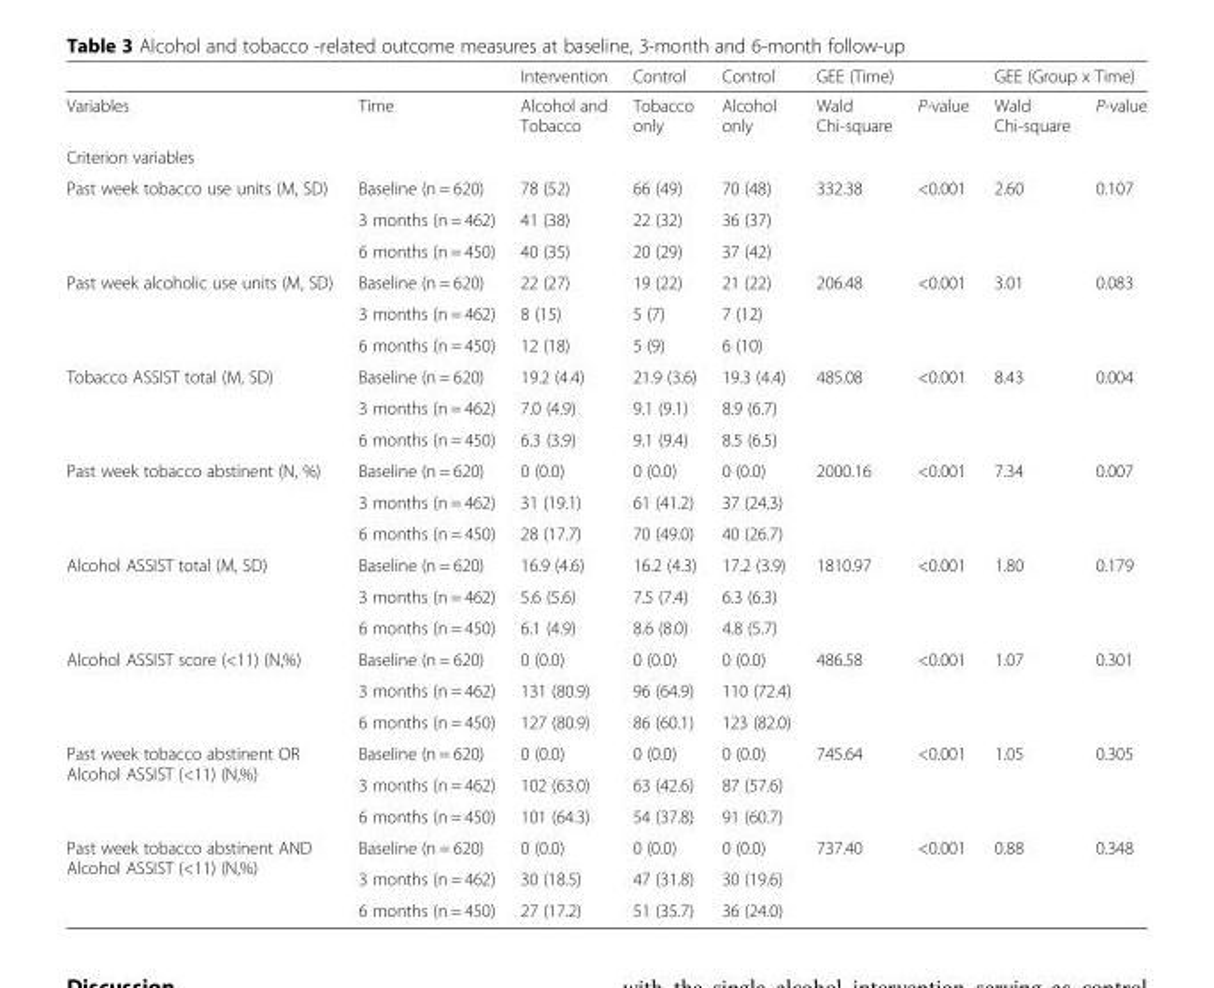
<table><thead><tr><td rowspan="2">Variables</td><td rowspan="2">Time</td><td rowspan="2">Intervention Alcohol and Tobacco</td><td rowspan="2">Control Tobacco only</td><td rowspan="2">Control Alcohol only</td><td colspan="2">GEE (Time)</td><td colspan="2">GEE (Group x Time)</td></tr><tr><td>Wald Chi-square</td><td>P-value</td><td>Wald Chi-square</td><td>P-value</td></tr></thead><tbody><tr><td colspan="9">Criterion variables</td></tr><tr><td rowspan="3">Past week tobacco use units (M, SD)</td><td>Baseline (n = 620)</td><td>78 (52)</td><td>66 (49)</td><td>70 (48)</td><td rowspan="3">332.38</td><td rowspan="3">&lt;0.001</td><td rowspan="3">2.60</td><td rowspan="3">0.107</td></tr><tr><td>3 months (n = 462)</td><td>41 (38)</td><td>22 (32)</td><td>36 (37)</td></tr><tr><td>6 months (n = 450)</td><td>40 (35)</td><td>20 (29)</td><td>37 (42)</td></tr><tr><td rowspan="3">Past week alcoholic use units (M, SD)</td><td>Baseline (n = 620)</td><td>22 (27)</td><td>19 (22)</td><td>21 (22)</td><td rowspan="3">206.48</td><td rowspan="3">&lt;0.001</td><td rowspan="3">3.01</td><td rowspan="3">0.083</td></tr><tr><td>3 months (n = 462)</td><td>8 (15)</td><td>5 (7)</td><td>7 (12)</td></tr><tr><td>6 months (n = 450)</td><td>12 (18)</td><td>5 (9)</td><td>6 (10)</td></tr><tr><td rowspan="3">Tobacco ASSIST total (M, SD)</td><td>Baseline (n = 620)</td><td>19.2 (4.4)</td><td>21.9 (3.6)</td><td>19.3 (4.4)</td><td rowspan="3">485.08</td><td rowspan="3">&lt;0.001</td><td rowspan="3">8.43</td><td rowspan="3">0.004</td></tr><tr><td>3 months (n = 462)</td><td>7.0 (4.9)</td><td>9.1 (9.1)</td><td>8.9 (6.7)</td></tr><tr><td>6 months (n = 450)</td><td>6.3 (3.9)</td><td>9.1 (9.4)</td><td>8.5 (6.5)</td></tr><tr><td rowspan="3">Past week tobacco abstinent (N, %)</td><td>Baseline (n = 620)</td><td>0 (0.0)</td><td>0 (0.0)</td><td>0 (0.0)</td><td rowspan="3">2000.16</td><td rowspan="3">&lt;0.001</td><td rowspan="3">7.34</td><td rowspan="3">0.007</td></tr><tr><td>3 months (n = 462)</td><td>31 (19.1)</td><td>61 (41.2)</td><td>37 (24.3)</td></tr><tr><td>6 months (n = 450)</td><td>28 (17.7)</td><td>70 (49.0)</td><td>40 (26.7)</td></tr><tr><td rowspan="3">Alcohol ASSIST total (M, SD)</td><td>Baseline (n = 620)</td><td>16.9 (4.6)</td><td>16.2 (4.3)</td><td>17.2 (3.9)</td><td rowspan="3">1810.97</td><td rowspan="3">&lt;0.001</td><td rowspan="3">1.80</td><td rowspan="3">0.179</td></tr><tr><td>3 months (n = 462)</td><td>5.6 (5.6)</td><td>7.5 (7.4)</td><td>6.3 (6.3)</td></tr><tr><td>6 months (n = 450)</td><td>6.1 (4.9)</td><td>8.6 (8.0)</td><td>4.8 (5.7)</td></tr><tr><td rowspan="3">Alcohol ASSIST score (&lt;11) (N,%)</td><td>Baseline (n = 620)</td><td>0 (0.0)</td><td>0 (0.0)</td><td>0 (0.0)</td><td rowspan="3">486.58</td><td rowspan="3">&lt;0.001</td><td rowspan="3">1.07</td><td rowspan="3">0.301</td></tr><tr><td>3 months (n = 462)</td><td>131 (80.9)</td><td>96 (64.9)</td><td>110 (72.4)</td></tr><tr><td>6 months (n = 450)</td><td>127 (80.9)</td><td>86 (60.1)</td><td>123 (82.0)</td></tr><tr><td rowspan="3">Past week tobacco abstinent OR Alcohol ASSIST (&lt;11) (N,%)</td><td>Baseline (n = 620)</td><td>0 (0.0)</td><td>0 (0.0)</td><td>0 (0.0)</td><td rowspan="3">745.64</td><td rowspan="3">&lt;0.001</td><td rowspan="3">1.05</td><td rowspan="3">0.305</td></tr><tr><td>3 months (n = 462)</td><td>102 (63.0)</td><td>63 (42.6)</td><td>87 (57.6)</td></tr><tr><td>6 months (n = 450)</td><td>101 (64.3)</td><td>54 (37.8)</td><td>91 (60.7)</td></tr><tr><td rowspan="3">Past week tobacco abstinent AND Alcohol ASSIST (&lt;11) (N,%)</td><td>Baseline (n = 620)</td><td>0 (0.0)</td><td>0 (0.0)</td><td>0 (0.0)</td><td rowspan="3">737.40</td><td rowspan="3">&lt;0.001</td><td rowspan="3">0.88</td><td rowspan="3">0.348</td></tr><tr><td>3 months (n = 462)</td><td>30 (18.5)</td><td>47 (31.8)</td><td>30 (19.6)</td></tr><tr><td>6 months (n = 450)</td><td>27 (17.2)</td><td>51 (35.7)</td><td>36 (24.0)</td></tr></tbody></table>